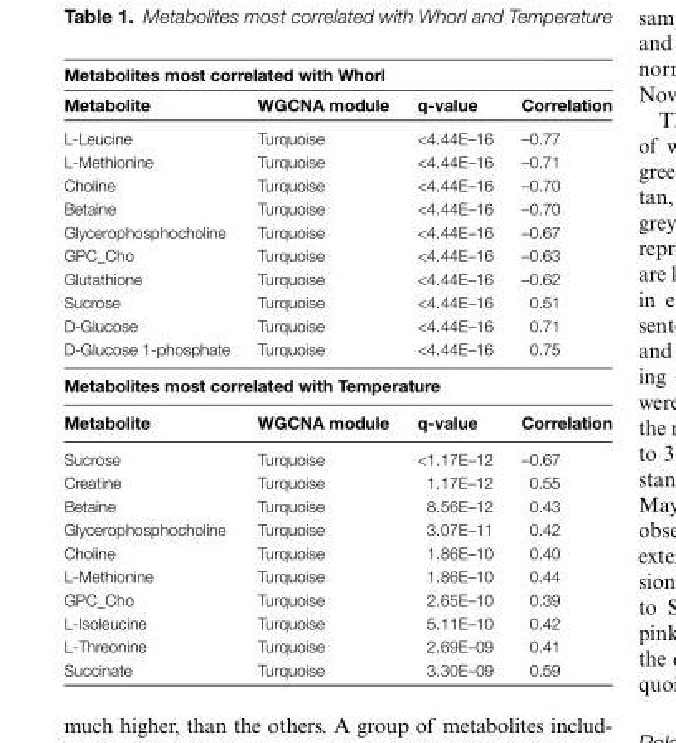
<table><thead><tr><td colspan="3">Metabolites most correlated with Whorl</td><td rowspan="2">Correlation</td></tr><tr><td>Metabolite</td><td>WGCNA module</td><td>q-value</td></tr></thead><tbody><tr><td>L-Leucine</td><td>Turquoise</td><td>&lt;4.44E–16</td><td>–0.77</td></tr><tr><td>L-Methionine</td><td>Turquoise</td><td>&lt;4.44E–16</td><td>–0.71</td></tr><tr><td>Choline</td><td>Turquoise</td><td>&lt;4.44E–16</td><td>–0.70</td></tr><tr><td>Betaine</td><td>Turquoise</td><td>&lt;4.44E–16</td><td>–0.70</td></tr><tr><td>Glycerophosphocholine</td><td>Turquoise</td><td>&lt;4.44E–16</td><td>–0.67</td></tr><tr><td>GPC_Cho</td><td>Turquoise</td><td>&lt;4.44E–16</td><td>–0.63</td></tr><tr><td>Glutathione</td><td>Turquoise</td><td>&lt;4.44E–16</td><td>–0.62</td></tr><tr><td>Sucrose</td><td>Turquoise</td><td>&lt;4.44E–16</td><td>0.51</td></tr><tr><td>D-Glucose</td><td>Turquoise</td><td>&lt;4.44E–16</td><td>0.71</td></tr><tr><td>D-Glucose 1-phosphate</td><td>Turquoise</td><td>&lt;4.44E–16</td><td>0.75</td></tr><tr><td colspan="4">Metabolites most correlated with Temperature</td></tr><tr><td>Metabolite</td><td>WGCNA module</td><td>q-value</td><td>Correlation</td></tr><tr><td>Sucrose</td><td>Turquoise</td><td>&lt;1.17E–12</td><td>–0.67</td></tr><tr><td>Creatine</td><td>Turquoise</td><td>1.17E–12</td><td>0.55</td></tr><tr><td>Betaine</td><td>Turquoise</td><td>8.56E–12</td><td>0.43</td></tr><tr><td>Glycerophosphocholine</td><td>Turquoise</td><td>3.07E–11</td><td>0.42</td></tr><tr><td>Choline</td><td>Turquoise</td><td>1.86E–10</td><td>0.40</td></tr><tr><td>L-Methionine</td><td>Turquoise</td><td>1.86E–10</td><td>0.44</td></tr><tr><td>GPC_Cho</td><td>Turquoise</td><td>2.65E–10</td><td>0.39</td></tr><tr><td>L-Isoleucine</td><td>Turquoise</td><td>5.11E–10</td><td>0.42</td></tr><tr><td>L-Threonine</td><td>Turquoise</td><td>2.69E–09</td><td>0.41</td></tr><tr><td>Succinate</td><td>Turquoise</td><td>3.30E–09</td><td>0.59</td></tr></tbody></table>